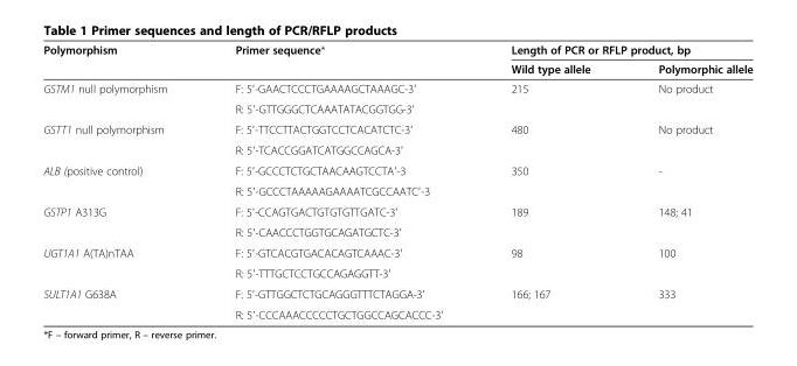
<table><thead><tr><td rowspan="2">Polymorphism</td><td rowspan="2">Primer sequence*</td><td colspan="2">Length of PCR or RFLP product, bp</td></tr><tr><td>Wild type allele</td><td>Polymorphic allele</td></tr></thead><tbody><tr><td rowspan="2">GSTM1 null polymorphism</td><td>F: 5′-GAACTCCCTGAAAAGCTAAAGC-3′</td><td rowspan="2">215</td><td rowspan="2">No product</td></tr><tr><td>R: 5′-GTTGGGCTCAAATATACGGTGG-3′</td></tr><tr><td rowspan="2">GSTT1 null polymorphism</td><td>F: 5′-TTCCTTACTGGTCCTCACATCTC-3′</td><td rowspan="2">480</td><td rowspan="2">No product</td></tr><tr><td>R: 5′-TCACCGGATCATGGCCAGCA-3′</td></tr><tr><td rowspan="2">ALB (positive control)</td><td>F: 5′-GCCCTCTGCTAACAAGTCCTA′-3</td><td rowspan="2">350</td><td rowspan="2">-</td></tr><tr><td>R: 5′-GCCCTAAAAAGAAAATCGCCAATC′-3</td></tr><tr><td rowspan="2">GSTP1 A313G</td><td>F: 5′-CCAGTGACTGTGTGTTGATC-3′</td><td rowspan="2">189</td><td rowspan="2">148; 41</td></tr><tr><td>R: 5′-CAACCCTGGTGCAGATGCTC-3′</td></tr><tr><td rowspan="2">UGT1A1 A(TA)nTAA</td><td>F: 5′-GTCACGTGACACAGTCAAAC-3′</td><td rowspan="2">98</td><td rowspan="2">100</td></tr><tr><td>R: 5′-TTTGCTCCTGCCAGAGGTT-3′</td></tr><tr><td rowspan="2">SULT1A1 G638A</td><td>F: 5′-GTTGGCTCTGCAGGGTTTCTAGGA-3′</td><td rowspan="2">166; 167</td><td rowspan="2">333</td></tr><tr><td>R: 5′-CCCAAACCCCCTGCTGGCCAGCACCC-3′</td></tr></tbody></table>